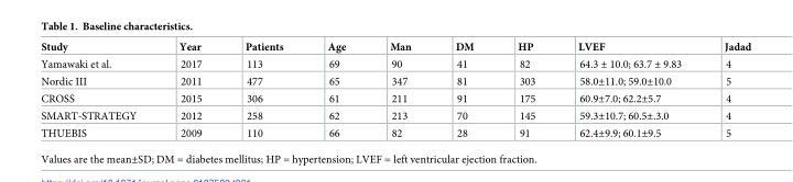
<table><thead><tr><td>Study</td><td>Year</td><td>Patients</td><td>Age</td><td>Man</td><td>DM</td><td>HP</td><td>LVEF</td><td>Jadad</td></tr></thead><tbody><tr><td>Yamawaki et al.</td><td>2017</td><td>113</td><td>69</td><td>90</td><td>41</td><td>82</td><td>64.3 ± 10.0; 63.7 ± 9.83</td><td>4</td></tr><tr><td>Nordic III</td><td>2011</td><td>477</td><td>65</td><td>347</td><td>81</td><td>303</td><td>58.0±11.0; 59.0±10.0</td><td>5</td></tr><tr><td>CROSS</td><td>2015</td><td>306</td><td>61</td><td>211</td><td>91</td><td>175</td><td>60.9±7.0; 62.2±5.7</td><td>4</td></tr><tr><td>SMART-STRATEGY</td><td>2012</td><td>258</td><td>62</td><td>213</td><td>70</td><td>145</td><td>59.3±10.7; 60.5±.3.0</td><td>4</td></tr><tr><td>THUEBIS</td><td>2009</td><td>110</td><td>66</td><td>82</td><td>28</td><td>91</td><td>62.4±9.9; 60.1±9.5</td><td>5</td></tr></tbody></table>